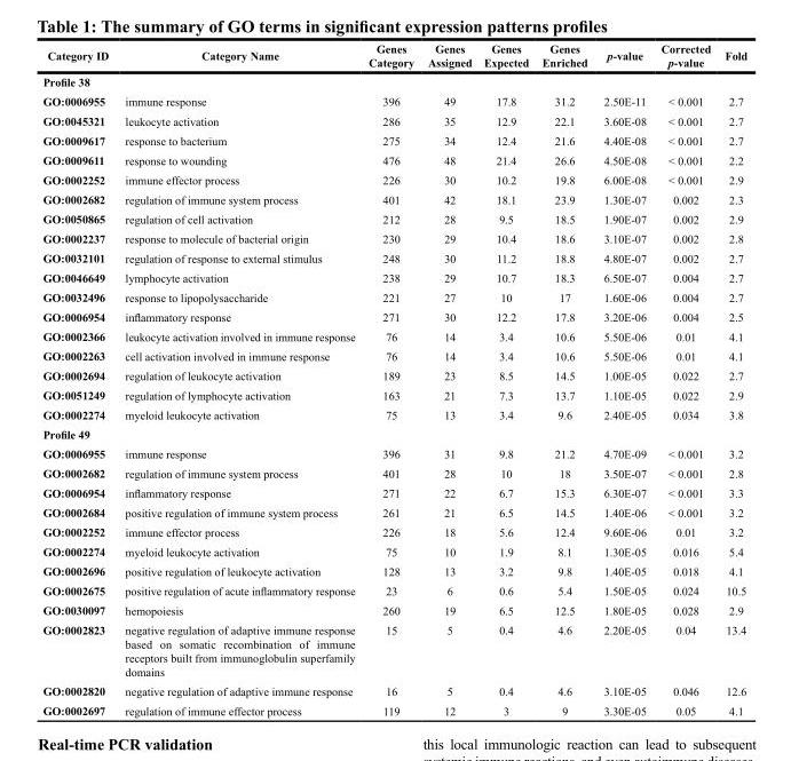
<table><thead><tr><td>Category ID</td><td>Category Name</td><td>Genes Category</td><td>Genes Assigned</td><td>Genes Expected</td><td>Genes Enriched</td><td>p-value</td><td>Corrected p-value</td><td>Fold</td></tr></thead><tbody><tr><td colspan="9">Profile 38</td></tr><tr><td>GO:0006955</td><td>immune response</td><td>396</td><td>49</td><td>17.8</td><td>31.2</td><td>2.50E-11</td><td>&lt; 0.001</td><td>2.7</td></tr><tr><td>GO:0045321</td><td>leukocyte activation</td><td>286</td><td>35</td><td>12.9</td><td>22.1</td><td>3.60E-08</td><td>&lt; 0.001</td><td>2.7</td></tr><tr><td>GO:0009617</td><td>response to bacterium</td><td>275</td><td>34</td><td>12.4</td><td>21.6</td><td>4.40E-08</td><td>&lt; 0.001</td><td>2.7</td></tr><tr><td>GO:0009611</td><td>response to wounding</td><td>476</td><td>48</td><td>21.4</td><td>26.6</td><td>4.50E-08</td><td>&lt; 0.001</td><td>2.2</td></tr><tr><td>GO:0002252</td><td>immune effector process</td><td>226</td><td>30</td><td>10.2</td><td>19.8</td><td>6.00E-08</td><td>&lt; 0.001</td><td>2.9</td></tr><tr><td>GO:0002682</td><td>regulation of immune system process</td><td>401</td><td>42</td><td>18.1</td><td>23.9</td><td>1.30E-07</td><td>0.002</td><td>2.3</td></tr><tr><td>GO:0050865</td><td>regulation of cell activation</td><td>212</td><td>28</td><td>9.5</td><td>18.5</td><td>1.90E-07</td><td>0.002</td><td>2.9</td></tr><tr><td>GO:0002237</td><td>response to molecule of bacterial origin</td><td>230</td><td>29</td><td>10.4</td><td>18.6</td><td>3.10E-07</td><td>0.002</td><td>2.8</td></tr><tr><td>GO:0032101</td><td>regulation of response to external stimulus</td><td>248</td><td>30</td><td>11.2</td><td>18.8</td><td>4.80E-07</td><td>0.002</td><td>2.7</td></tr><tr><td>GO:0046649</td><td>lymphocyte activation</td><td>238</td><td>29</td><td>10.7</td><td>18.3</td><td>6.50E-07</td><td>0.004</td><td>2.7</td></tr><tr><td>GO:0032496</td><td>response to lipopolysaccharide</td><td>221</td><td>27</td><td>10</td><td>17</td><td>1.60E-06</td><td>0.004</td><td>2.7</td></tr><tr><td>GO:0006954</td><td>inflammatory response</td><td>271</td><td>30</td><td>12.2</td><td>17.8</td><td>3.20E-06</td><td>0.004</td><td>2.5</td></tr><tr><td>GO:0002366</td><td>leukocyte activation involved in immune response</td><td>76</td><td>14</td><td>3.4</td><td>10.6</td><td>5.50E-06</td><td>0.01</td><td>4.1</td></tr><tr><td>GO:0002263</td><td>cell activation involved in immune response</td><td>76</td><td>14</td><td>3.4</td><td>10.6</td><td>5.50E-06</td><td>0.01</td><td>4.1</td></tr><tr><td>GO:0002694</td><td>regulation of leukocyte activation</td><td>189</td><td>23</td><td>8.5</td><td>14.5</td><td>1.00E-05</td><td>0.022</td><td>2.7</td></tr><tr><td>GO:0051249</td><td>regulation of lymphocyte activation</td><td>163</td><td>21</td><td>7.3</td><td>13.7</td><td>1.10E-05</td><td>0.022</td><td>2.9</td></tr><tr><td>GO:0002274</td><td>myeloid leukocyte activation</td><td>75</td><td>13</td><td>3.4</td><td>9.6</td><td>2.40E-05</td><td>0.034</td><td>3.8</td></tr><tr><td colspan="9">Profile 49</td></tr><tr><td>GO:0006955</td><td>immune response</td><td>396</td><td>31</td><td>9.8</td><td>21.2</td><td>4.70E-09</td><td>&lt; 0.001</td><td>3.2</td></tr><tr><td>GO:0002682</td><td>regulation of immune system process</td><td>401</td><td>28</td><td>10</td><td>18</td><td>3.50E-07</td><td>&lt; 0.001</td><td>2.8</td></tr><tr><td>GO:0006954</td><td>inflammatory response</td><td>271</td><td>22</td><td>6.7</td><td>15.3</td><td>6.30E-07</td><td>&lt; 0.001</td><td>3.3</td></tr><tr><td>GO:0002684</td><td>positive regulation of immune system process</td><td>261</td><td>21</td><td>6.5</td><td>14.5</td><td>1.40E-06</td><td>&lt; 0.001</td><td>3.2</td></tr><tr><td>GO:0002252</td><td>immune effector process</td><td>226</td><td>18</td><td>5.6</td><td>12.4</td><td>9.60E-06</td><td>0.01</td><td>3.2</td></tr><tr><td>GO:0002274</td><td>myeloid leukocyte activation</td><td>75</td><td>10</td><td>1.9</td><td>8.1</td><td>1.30E-05</td><td>0.016</td><td>5.4</td></tr><tr><td>GO:0002696</td><td>positive regulation of leukocyte activation</td><td>128</td><td>13</td><td>3.2</td><td>9.8</td><td>1.40E-05</td><td>0.018</td><td>4.1</td></tr><tr><td>GO:0002675</td><td>positive regulation of acute inflammatory response</td><td>23</td><td>6</td><td>0.6</td><td>5.4</td><td>1.50E-05</td><td>0.024</td><td>10.5</td></tr><tr><td>GO:0030097</td><td>hemopoiesis</td><td>260</td><td>19</td><td>6.5</td><td>12.5</td><td>1.80E-05</td><td>0.028</td><td>2.9</td></tr><tr><td>GO:0002823</td><td>negative regulation of adaptive immune response based on somatic recombination of immune receptors built from immunoglobulin superfamily domains</td><td>15</td><td>5</td><td>0.4</td><td>4.6</td><td>2.20E-05</td><td>0.04</td><td>13.4</td></tr><tr><td>GO:0002820</td><td>negative regulation of adaptive immune response</td><td>16</td><td>5</td><td>0.4</td><td>4.6</td><td>3.10E-05</td><td>0.046</td><td>12.6</td></tr><tr><td>GO:0002697</td><td>regulation of immune effector process</td><td>119</td><td>12</td><td>3</td><td>9</td><td>3.30E-05</td><td>0.05</td><td>4.1</td></tr></tbody></table>